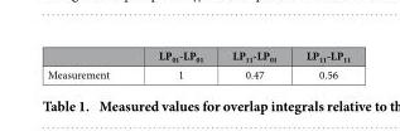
<table><thead><tr><td></td><td>LP<sub>01</sub>-LP<sub>01</sub></td><td>LP<sub>11</sub>-LP<sub>01</sub></td><td>LP<sub>11</sub>-LP<sub>11</sub></td></tr></thead><tbody><tr><td>Measurement</td><td>1</td><td>0.47</td><td>0.56</td></tr></tbody></table>